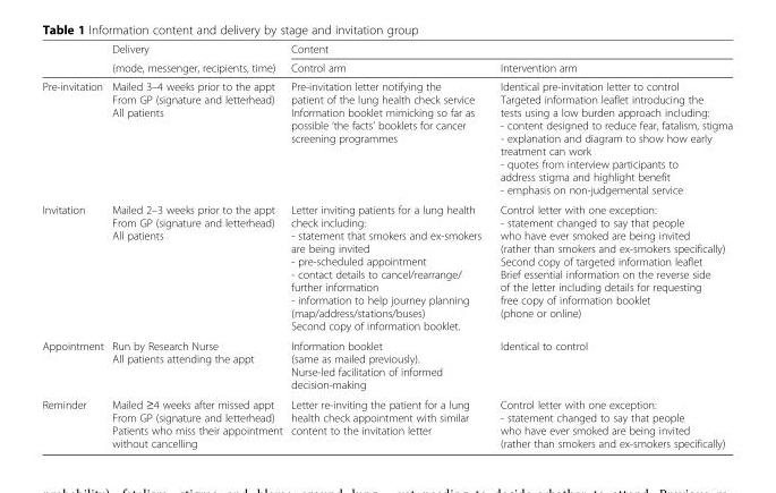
<table><thead><tr><td rowspan="2"></td><td rowspan="2">Delivery (mode, messenger, recipients, time)</td><td colspan="2">Content</td></tr><tr><td>Control arm</td><td>Intervention arm</td></tr></thead><tbody><tr><td>Pre-invitation</td><td>Mailed 3–4 weeks prior to the appt From GP (signature and letterhead) All patients</td><td>Pre-invitation letter notifying the patient of the lung health check service Information booklet mimicking so far as possible ‘the facts’ booklets for cancer screening programmes</td><td>Identical pre-invitation letter to control Targeted information leaflet introducing the tests using a low burden approach including: - content designed to reduce fear, fatalism, stigma - explanation and diagram to show how early treatment can work - quotes from interview participants to address stigma and highlight benefit - emphasis on non-judgemental service</td></tr><tr><td>Invitation</td><td>Mailed 2–3 weeks prior to the appt From GP (signature and letterhead) All patients</td><td>Letter inviting patients for a lung health check including: - statement that smokers and ex-smokers are being invited - pre-scheduled appointment - contact details to cancel/rearrange/ further information - information to help journey planning (map/address/stations/buses) Second copy of information booklet.</td><td>Control letter with one exception: - statement changed to say that people who have ever smoked are being invited (rather than smokers and ex-smokers specifically) Second copy of targeted information leaflet Brief essential information on the reverse side of the letter including details for requesting free copy of information booklet (phone or online)</td></tr><tr><td>Appointment</td><td>Run by Research Nurse All patients attending the appt</td><td>Information booklet (same as mailed previously). Nurse-led facilitation of informed decision-making</td><td>Identical to control</td></tr><tr><td>Reminder</td><td>Mailed ≥4 weeks after missed appt From GP (signature and letterhead) Patients who miss their appointment without cancelling</td><td>Letter re-inviting the patient for a lung health check appointment with similar content to the invitation letter</td><td>Control letter with one exception: - statement changed to say that people who have ever smoked are being invited (rather than smokers and ex-smokers specifically)</td></tr></tbody></table>